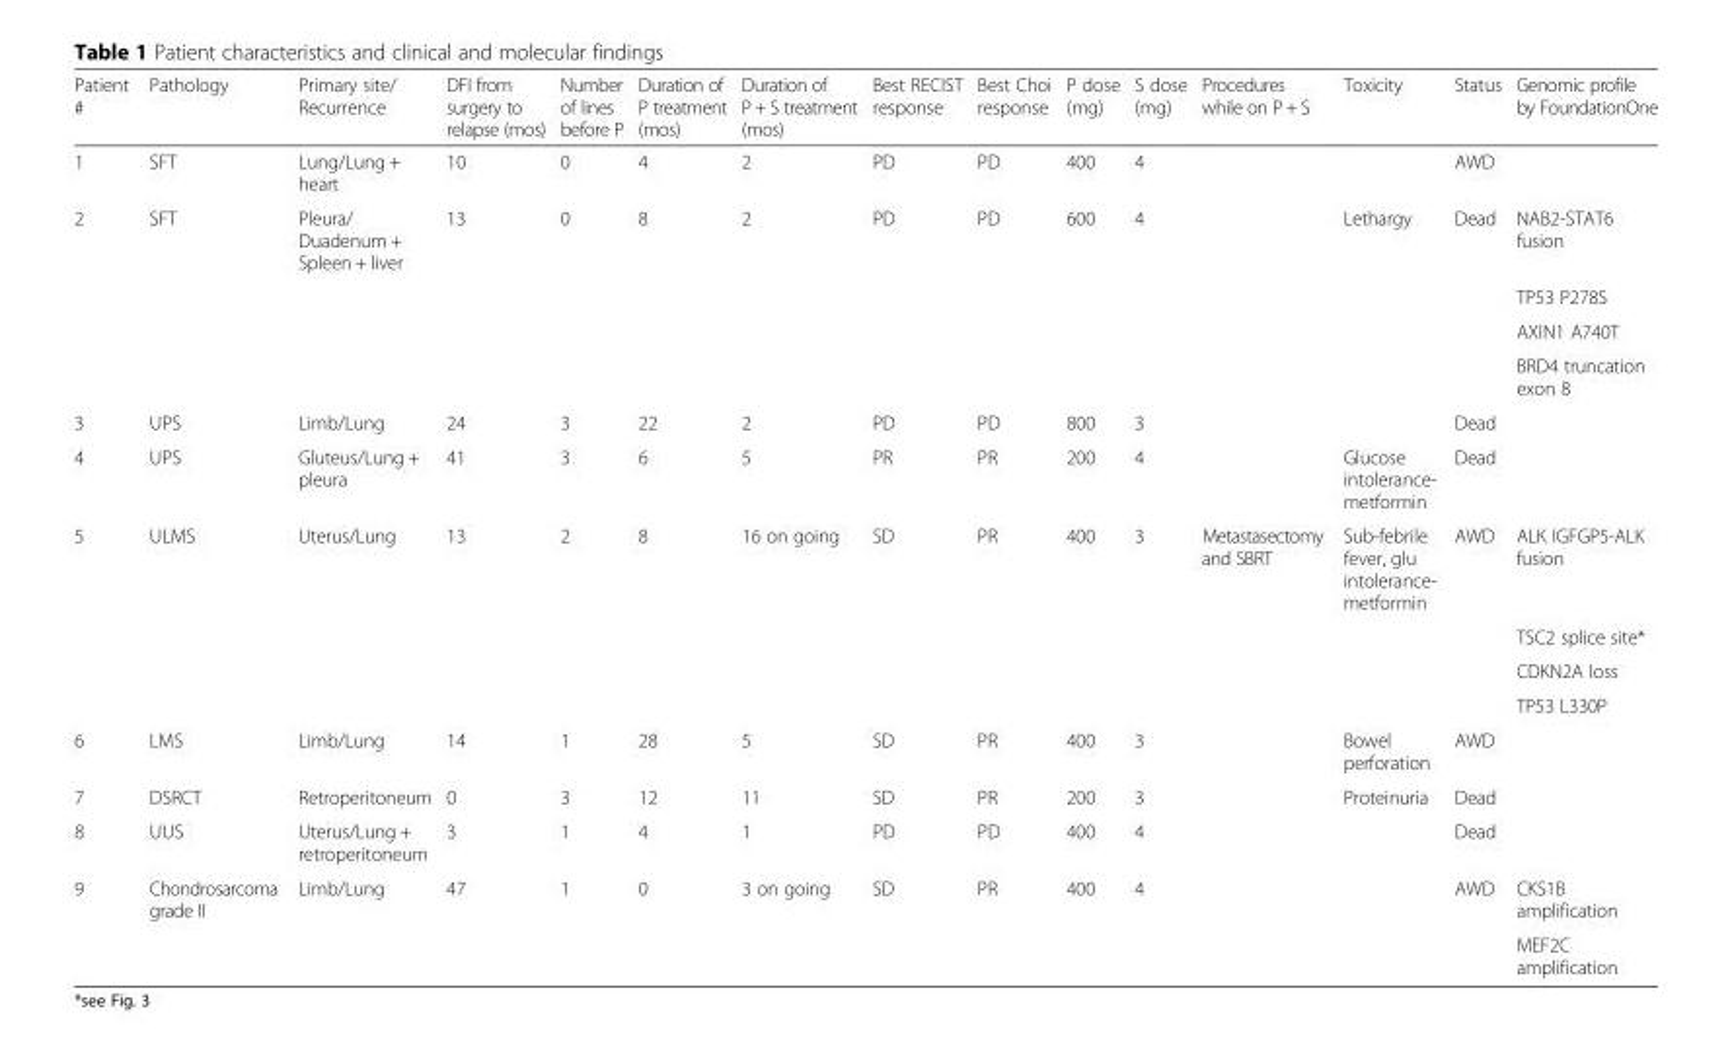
<table><thead><tr><td>Patient #</td><td>Pathology</td><td>Primary site/ Recurrence</td><td>DFI from surgery to relapse (mos)</td><td>Number of lines before P</td><td>Duration of P treatment (mos)</td><td>Duration of P + S treatment (mos)</td><td>Best RECIST response</td><td>Best Choi response</td><td>P dose (mg)</td><td>S dose (mg)</td><td>Procedures while on P + S</td><td>Toxicity</td><td>Status</td><td>Genomic profile by FoundationOne</td></tr></thead><tbody><tr><td>1</td><td>SFT</td><td>Lung/Lung + heart</td><td>10</td><td>0</td><td>4</td><td>2</td><td>PD</td><td>PD</td><td>400</td><td>4</td><td></td><td></td><td>AWD</td><td></td></tr><tr><td rowspan="4">2</td><td>SFT</td><td>Pleura/ Duadenum + Spleen + liver</td><td>13</td><td>0</td><td>8</td><td>2</td><td>PD</td><td>PD</td><td>600</td><td>4</td><td></td><td>Lethargy</td><td>Dead</td><td>NAB2-STAT6 fusion</td></tr><tr><td></td><td></td><td></td><td></td><td></td><td></td><td></td><td></td><td></td><td></td><td></td><td></td><td></td><td>TP53 P278S</td></tr><tr><td></td><td></td><td></td><td></td><td></td><td></td><td></td><td></td><td></td><td></td><td></td><td></td><td></td><td>AXIN1 A740T</td></tr><tr><td></td><td></td><td></td><td></td><td></td><td></td><td></td><td></td><td></td><td></td><td></td><td></td><td></td><td>BRD4 truncation exon 8</td></tr><tr><td>3</td><td>UPS</td><td>Limb/Lung</td><td>24</td><td>3</td><td>22</td><td>2</td><td>PD</td><td>PD</td><td>800</td><td>3</td><td></td><td></td><td>Dead</td><td></td></tr><tr><td>4</td><td>UPS</td><td>Gluteus/Lung + pleura</td><td>41</td><td>3</td><td>6</td><td>5</td><td>PR</td><td>PR</td><td>200</td><td>4</td><td></td><td>Glucose intolerance- metformin</td><td>Dead</td><td></td></tr><tr><td rowspan="4">5</td><td>ULMS</td><td>Uterus/Lung</td><td>13</td><td>2</td><td>8</td><td>16 on going</td><td>SD</td><td>PR</td><td>400</td><td>3</td><td>Metastasectomy and SBRT</td><td>Sub-febrile fever, glu intolerance- metformin</td><td>AWD</td><td>ALK IGFGP5-ALK fusion</td></tr><tr><td></td><td></td><td></td><td></td><td></td><td></td><td></td><td></td><td></td><td></td><td></td><td></td><td></td><td>TSC2 splice site*</td></tr><tr><td></td><td></td><td></td><td></td><td></td><td></td><td></td><td></td><td></td><td></td><td></td><td></td><td></td><td>CDKN2A loss</td></tr><tr><td></td><td></td><td></td><td></td><td></td><td></td><td></td><td></td><td></td><td></td><td></td><td></td><td></td><td>TP53 L330P</td></tr><tr><td>6</td><td>LMS</td><td>Limb/Lung</td><td>14</td><td>1</td><td>28</td><td>5</td><td>SD</td><td>PR</td><td>400</td><td>3</td><td></td><td>Bowel perforation</td><td>AWD</td><td></td></tr><tr><td>7</td><td>DSRCT</td><td>Retroperitoneum</td><td>0</td><td>3</td><td>12</td><td>11</td><td>SD</td><td>PR</td><td>200</td><td>3</td><td></td><td>Proteinuria</td><td>Dead</td><td></td></tr><tr><td>8</td><td>UUS</td><td>Uterus/Lung + retroperitoneum</td><td>3</td><td>1</td><td>4</td><td>1</td><td>PD</td><td>PD</td><td>400</td><td>4</td><td></td><td></td><td>Dead</td><td></td></tr><tr><td rowspan="2">9</td><td>Chondrosarcoma grade II</td><td>Limb/Lung</td><td>47</td><td>1</td><td>0</td><td>3 on going</td><td>SD</td><td>PR</td><td>400</td><td>4</td><td></td><td></td><td>AWD</td><td>CKS1B amplification</td></tr><tr><td></td><td></td><td></td><td></td><td></td><td></td><td></td><td></td><td></td><td></td><td></td><td></td><td></td><td>MEF2C amplification</td></tr></tbody></table>